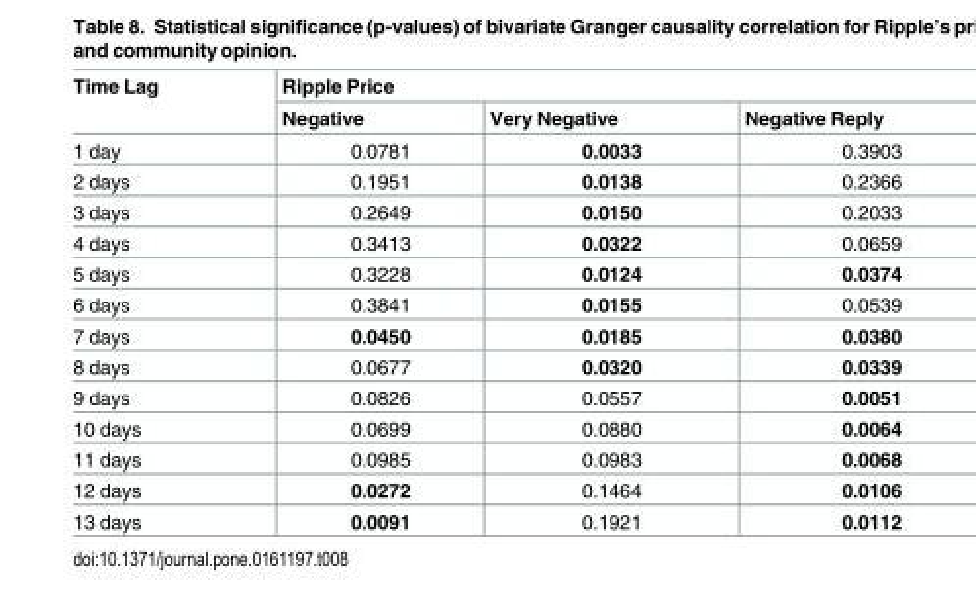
<table><thead><tr><td rowspan="2">Time Lag</td><td colspan="3">Ripple Price</td></tr><tr><td>Negative</td><td>Very Negative</td><td>Negative Reply</td></tr></thead><tbody><tr><td>1 day</td><td>0.0781</td><td>0.0033</td><td>0.3903</td></tr><tr><td>2 days</td><td>0.1951</td><td>0.0138</td><td>0.2366</td></tr><tr><td>3 days</td><td>0.2649</td><td>0.0150</td><td>0.2033</td></tr><tr><td>4 days</td><td>0.3413</td><td>0.0322</td><td>0.0659</td></tr><tr><td>5 days</td><td>0.3228</td><td>0.0124</td><td>0.0374</td></tr><tr><td>6 days</td><td>0.3841</td><td>0.0155</td><td>0.0539</td></tr><tr><td>7 days</td><td>0.0450</td><td>0.0185</td><td>0.0380</td></tr><tr><td>8 days</td><td>0.0677</td><td>0.0320</td><td>0.0339</td></tr><tr><td>9 days</td><td>0.0826</td><td>0.0557</td><td>0.0051</td></tr><tr><td>10 days</td><td>0.0699</td><td>0.0880</td><td>0.0064</td></tr><tr><td>11 days</td><td>0.0985</td><td>0.0983</td><td>0.0068</td></tr><tr><td>12 days</td><td>0.0272</td><td>0.1464</td><td>0.0106</td></tr><tr><td>13 days</td><td>0.0091</td><td>0.1921</td><td>0.0112</td></tr></tbody></table>